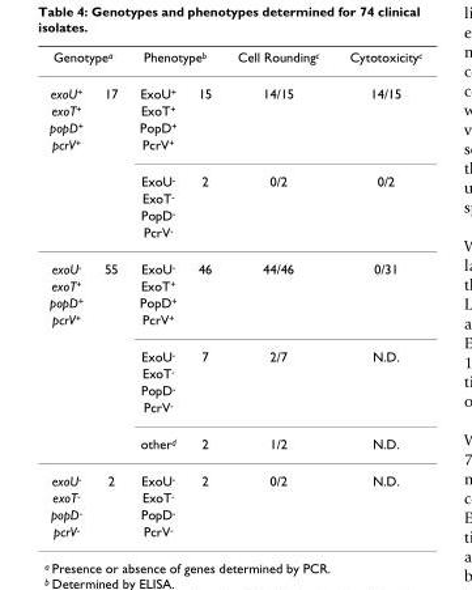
<table><thead><tr><td colspan="2">Genotype<sup>a</sup></td><td colspan="2">Phenotype<sup>b</sup></td><td rowspan="2">Cell Rounding<sup>c</sup> 14/15</td><td rowspan="2">Cytotoxicity<sup>c</sup> 14/15</td></tr><tr><td>exoU+</td><td>17</td><td>ExoU<sup>+</sup></td><td>15</td></tr></thead><tbody><tr><td>exoT+</td><td></td><td>ExoT<sup>+</sup></td><td></td><td></td><td></td></tr><tr><td>popD<sup>+</sup></td><td></td><td>PopD<sup>+</sup></td><td></td><td></td><td></td></tr><tr><td rowspan="5">pcrV<sup>+</sup></td><td></td><td>PcrV<sup>+</sup></td><td></td><td></td><td></td></tr><tr><td></td><td>ExoU<sup>-</sup></td><td>2</td><td>0/2</td><td>0/2</td></tr><tr><td></td><td>ExoT<sup>-</sup></td><td></td><td></td><td></td></tr><tr><td></td><td>PopD<sup>-</sup></td><td></td><td></td><td></td></tr><tr><td></td><td>PcrV<sup>-</sup></td><td></td><td></td><td></td></tr><tr><td>exoU<sup>-</sup></td><td>55</td><td>ExoU<sup>-</sup></td><td>46</td><td>44/46</td><td>0/31</td></tr><tr><td>exoT<sup>+</sup></td><td></td><td>ExoT<sup>+</sup></td><td></td><td></td><td></td></tr><tr><td>popD<sup>+</sup></td><td></td><td>PopD<sup>+</sup></td><td></td><td></td><td></td></tr><tr><td rowspan="6">pcrV<sup>+</sup></td><td></td><td>PcrV<sup>+</sup></td><td></td><td></td><td></td></tr><tr><td></td><td>ExoU<sup>-</sup></td><td>7</td><td>2/7</td><td>N.D.</td></tr><tr><td></td><td>ExoT<sup>-</sup></td><td></td><td></td><td></td></tr><tr><td></td><td>PopD<sup>-</sup></td><td></td><td></td><td></td></tr><tr><td></td><td>PcrV<sup>-</sup></td><td></td><td></td><td></td></tr><tr><td></td><td>other<sup>d</sup></td><td>2</td><td>1/2</td><td>N.D.</td></tr><tr><td>exoU<sup>-</sup></td><td>2</td><td>ExoU<sup>-</sup></td><td>2</td><td>0/2</td><td>N.D.</td></tr><tr><td>exoT<sup>-</sup></td><td></td><td>ExoT<sup>-</sup></td><td></td><td></td><td></td></tr><tr><td>popD<sup>-</sup></td><td></td><td>PopD<sup>-</sup></td><td></td><td></td><td></td></tr><tr><td>pcrV<sup>-</sup></td><td></td><td>PcrV<sup>-</sup></td><td></td><td></td><td></td></tr></tbody></table>